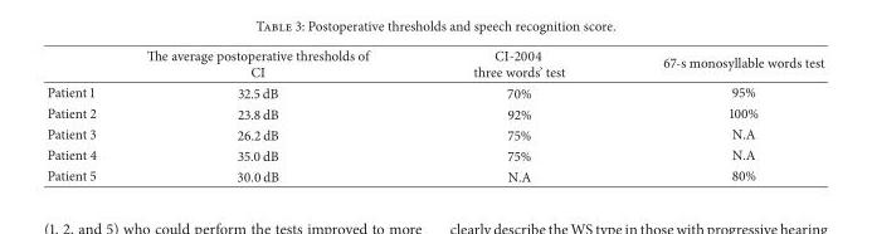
<table><thead><tr><td></td><td>The average postoperative thresholds of CI</td><td>CI-2004 three words’ test</td><td>67-s monosyllable words test</td></tr></thead><tbody><tr><td>Patient 1</td><td>32.5 dB</td><td>70%</td><td>95%</td></tr><tr><td>Patient 2</td><td>23.8 dB</td><td>92%</td><td>100%</td></tr><tr><td>Patient 3</td><td>26.2 dB</td><td>75%</td><td>N.A</td></tr><tr><td>Patient 4</td><td>35.0 dB</td><td>75%</td><td>N.A</td></tr><tr><td>Patient 5</td><td>30.0 dB</td><td>N.A</td><td>80%</td></tr></tbody></table>